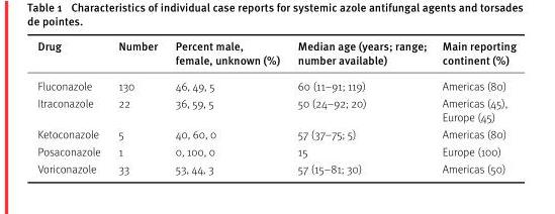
<table><thead><tr><td>Drug</td><td>Number</td><td>Percent male, female, unknown (%)</td><td>Median age (years; range; number available)</td><td>Main reporting continent (%)</td></tr></thead><tbody><tr><td>Fluconazole</td><td>130</td><td>46, 49, 5</td><td>60 (11–91; 119)</td><td>Americas (80)</td></tr><tr><td>Itraconazole</td><td>22</td><td>36, 59, 5</td><td>50 (24–92; 20)</td><td>Americas (45), Europe (45)</td></tr><tr><td>Ketoconazole</td><td>5</td><td>40, 60, 0</td><td>57 (37–75; 5)</td><td>Americas (80)</td></tr><tr><td>Posaconazole</td><td>1</td><td>0, 100, 0</td><td>15</td><td>Europe (100)</td></tr><tr><td>Voriconazole</td><td>33</td><td>53, 44, 3</td><td>57 (15–81; 30)</td><td>Americas (50)</td></tr></tbody></table>